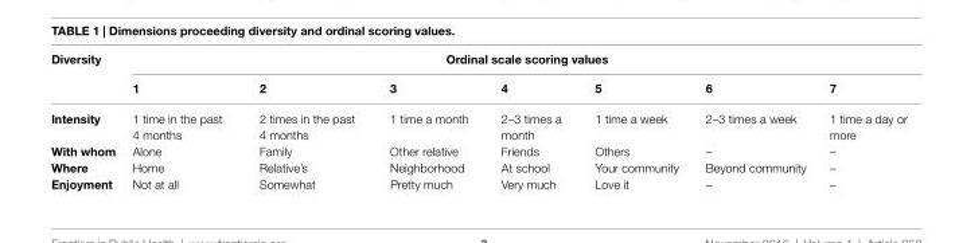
<table><thead><tr><td rowspan="2">Diversity</td><td colspan="7">Ordinal scale scoring values</td></tr><tr><td>1</td><td>2</td><td>3</td><td>4</td><td>5</td><td>6</td><td>7</td></tr></thead><tbody><tr><td>intensity</td><td>1 time in the past 4 months</td><td>2 times in the past 4 months</td><td>1 time a month</td><td>2–3 times a month</td><td>1 time a week</td><td>2–3 times a week</td><td>1 time a day or more</td></tr><tr><td>With whom</td><td>Alone</td><td>Family</td><td>Other relative</td><td>Friends</td><td>Others</td><td>–</td><td>–</td></tr><tr><td>Where</td><td>Home</td><td>Relative’s</td><td>Neighborhood</td><td>At school</td><td>Your community</td><td>Beyond community</td><td>–</td></tr><tr><td>enjoyment</td><td>Not at all</td><td>Somewhat</td><td>Pretty much</td><td>Very much</td><td>Love it</td><td>–</td><td>–</td></tr></tbody></table>